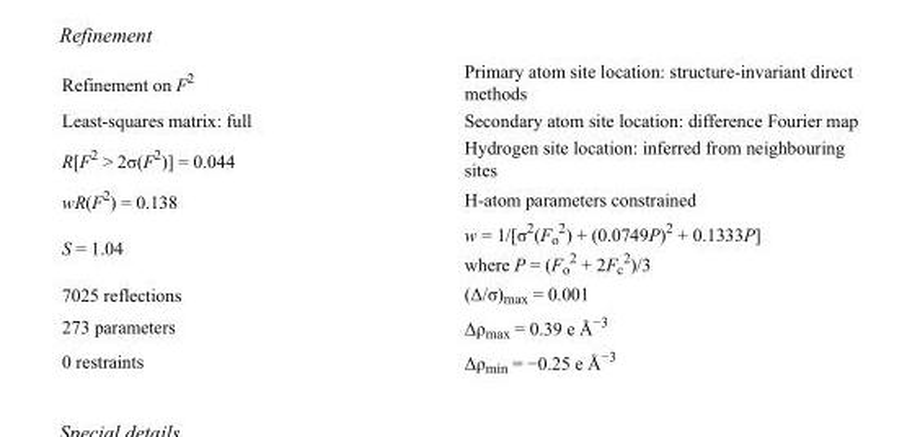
<table><tbody><tr><td>Refinement on F<sup>2</sup></td><td>Primary atom site location: structure-invariant direct methods</td></tr><tr><td>Least-squares matrix: full</td><td>Secondary atom site location: difference Fourier map</td></tr><tr><td>R[F<sup>2</sup> &gt; 2σ(F<sup>2</sup>)] = 0.044</td><td>Hydrogen site location: inferred from neighbouring sites</td></tr><tr><td>wR(F<sup>2</sup>) = 0.138</td><td>H-atom parameters constrained</td></tr><tr><td>S = 1.04</td><td>w = 1/[σ<sup>2</sup>(F<sub>o</sub> <sup>2</sup>) + (0.0749P)<sup>2</sup> + 0.1333P] where P = (F<sub>o</sub> <sup>2</sup> + 2F<sub>c</sub> <sup>2</sup>)/3</td></tr><tr><td>7025 reflections</td><td>(Δ/σ)<sub>max</sub> = 0.001</td></tr><tr><td>273 parameters</td><td>Δρ<sub>max</sub> = 0.39 e Å<sup>−3</sup></td></tr><tr><td>0 restraints</td><td>Δρ<sub>min</sub> = −0.25 e Å<sup>−3</sup></td></tr></tbody></table>